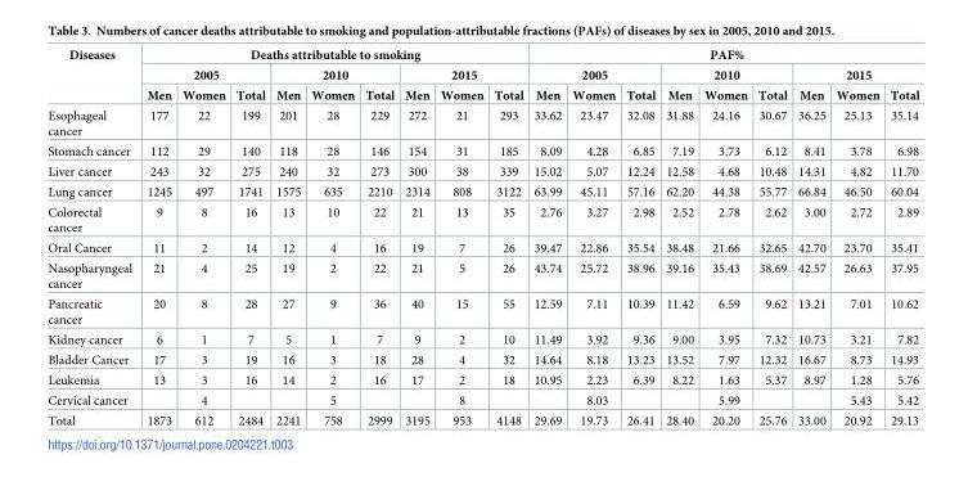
<table><thead><tr><td rowspan="3">Diseases</td><td colspan="9">Deaths attributable to smoking</td><td colspan="9">PAF%</td></tr><tr><td colspan="3">2005</td><td colspan="3">2010</td><td colspan="3">2015</td><td colspan="3">2005</td><td colspan="3">2010</td><td colspan="3">2015</td></tr><tr><td>Men</td><td>Women</td><td>Total</td><td>Men</td><td>Women</td><td>Total</td><td>Men</td><td>Women</td><td>Total</td><td>Men</td><td>Women</td><td>Total</td><td>Men</td><td>Women</td><td>Total</td><td>Men</td><td>Women</td><td>Total</td></tr></thead><tbody><tr><td>Esophageal cancer</td><td>177</td><td>22</td><td>199</td><td>201</td><td>28</td><td>229</td><td>272</td><td>21</td><td>293</td><td>33.62</td><td>23.47</td><td>32.08</td><td>31.88</td><td>24.16</td><td>30.67</td><td>36.25</td><td>25.13</td><td>35.14</td></tr><tr><td>Stomach cancer</td><td>112</td><td>29</td><td>140</td><td>118</td><td>28</td><td>146</td><td>154</td><td>31</td><td>185</td><td>8.09</td><td>4.28</td><td>6.85</td><td>7.19</td><td>3.73</td><td>6.12</td><td>8.41</td><td>3.78</td><td>6.98</td></tr><tr><td>Liver cancer</td><td>243</td><td>32</td><td>275</td><td>240</td><td>32</td><td>273</td><td>300</td><td>38</td><td>339</td><td>15.02</td><td>5.07</td><td>12.24</td><td>12.58</td><td>4.68</td><td>10.48</td><td>14.31</td><td>4.82</td><td>11.70</td></tr><tr><td>Lung cancer</td><td>1245</td><td>497</td><td>1741</td><td>1575</td><td>635</td><td>2210</td><td>2314</td><td>808</td><td>3122</td><td>63.99</td><td>45.11</td><td>57.16</td><td>62.20</td><td>44.38</td><td>55.77</td><td>66.84</td><td>46.50</td><td>60.04</td></tr><tr><td>Colorectal cancer</td><td>9</td><td>8</td><td>16</td><td>13</td><td>10</td><td>22</td><td>21</td><td>13</td><td>35</td><td>2.76</td><td>3.27</td><td>2.98</td><td>2.52</td><td>2.78</td><td>2.62</td><td>3.00</td><td>2.72</td><td>2.89</td></tr><tr><td>Oral Cancer</td><td>11</td><td>2</td><td>14</td><td>12</td><td>4</td><td>16</td><td>19</td><td>7</td><td>26</td><td>39.47</td><td>22.86</td><td>35.54</td><td>38.48</td><td>21.66</td><td>32.65</td><td>42.70</td><td>23.70</td><td>35.41</td></tr><tr><td>Nasopharyngeal cancer</td><td>21</td><td>4</td><td>25</td><td>19</td><td>2</td><td>22</td><td>21</td><td>5</td><td>26</td><td>43.74</td><td>25.72</td><td>38.96</td><td>39.16</td><td>35.43</td><td>38.69</td><td>42.57</td><td>26.63</td><td>37.95</td></tr><tr><td>Pancreatic cancer</td><td>20</td><td>8</td><td>28</td><td>27</td><td>9</td><td>36</td><td>40</td><td>15</td><td>55</td><td>12.59</td><td>7.11</td><td>10.39</td><td>11.42</td><td>6.59</td><td>9.62</td><td>13.21</td><td>7.01</td><td>10.62</td></tr><tr><td>Kidney cancer</td><td>6</td><td>1</td><td>7</td><td>5</td><td>1</td><td>7</td><td>9</td><td>2</td><td>10</td><td>11.49</td><td>3.92</td><td>9.36</td><td>9.00</td><td>3.95</td><td>7.32</td><td>10.73</td><td>3.21</td><td>7.82</td></tr><tr><td>Bladder Cancer</td><td>17</td><td>3</td><td>19</td><td>16</td><td>3</td><td>18</td><td>28</td><td>4</td><td>32</td><td>14.64</td><td>8.18</td><td>13.23</td><td>13.52</td><td>7.97</td><td>12.32</td><td>16.67</td><td>8.73</td><td>14.93</td></tr><tr><td>Leukemia</td><td>13</td><td>3</td><td>16</td><td>14</td><td>2</td><td>16</td><td>17</td><td>2</td><td>18</td><td>10.95</td><td>2.23</td><td>6.39</td><td>8.22</td><td>1.63</td><td>5.37</td><td>8.97</td><td>1.28</td><td>5.76</td></tr><tr><td>Cervical cancer</td><td></td><td>4</td><td></td><td></td><td>5</td><td></td><td></td><td>8</td><td></td><td></td><td>8.03</td><td></td><td></td><td>5.99</td><td></td><td></td><td>5.43</td><td>5.42</td></tr><tr><td>Total</td><td>1873</td><td>612</td><td>2484</td><td>2241</td><td>758</td><td>2999</td><td>3195</td><td>953</td><td>4148</td><td>29.69</td><td>19.73</td><td>26.41</td><td>28.40</td><td>20.20</td><td>25.76</td><td>33.00</td><td>20.92</td><td>29.13</td></tr></tbody></table>